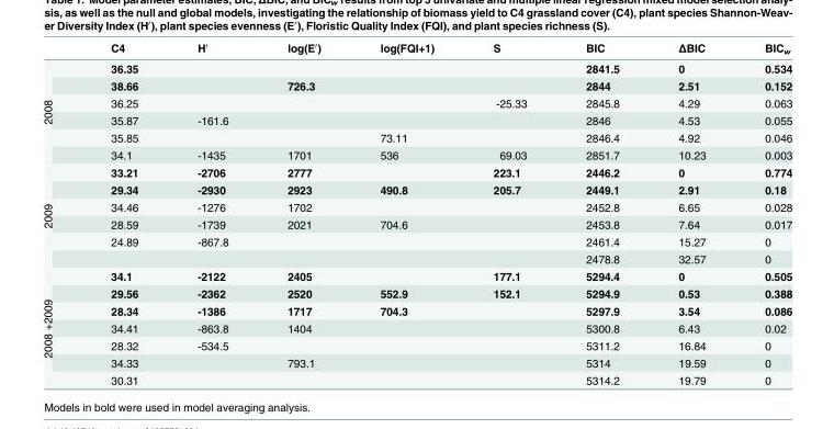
<table><thead><tr><td></td><td>C4</td><td>H′</td><td>log(E′)</td><td>log(FQI+1)</td><td>S</td><td>BIC</td><td>ΔBIC</td><td>BIC<sub>w</sub></td></tr></thead><tbody><tr><td rowspan="6">2008</td><td>36.35</td><td></td><td></td><td></td><td></td><td>2841.5</td><td>0</td><td>0.534</td></tr><tr><td>38.66</td><td></td><td>726.3</td><td></td><td></td><td>2844</td><td>2.51</td><td>0.152</td></tr><tr><td>36.25</td><td></td><td></td><td></td><td>-25.33</td><td>2845.8</td><td>4.29</td><td>0.063</td></tr><tr><td>35.87</td><td>-161.6</td><td></td><td></td><td></td><td>2846</td><td>4.53</td><td>0.055</td></tr><tr><td>35.85</td><td></td><td></td><td>73.11</td><td></td><td>2846.4</td><td>4.92</td><td>0.046</td></tr><tr><td>34.1</td><td>-1435</td><td>1701</td><td>536</td><td>69.03</td><td>2851.7</td><td>10.23</td><td>0.003</td></tr><tr><td rowspan="6">2009</td><td>33.21</td><td>-2706</td><td>2777</td><td></td><td>223.1</td><td>2446.2</td><td>0</td><td>0.774</td></tr><tr><td>29.34</td><td>-2930</td><td>2923</td><td>490.8</td><td>205.7</td><td>2449.1</td><td>2.91</td><td>0.18</td></tr><tr><td>34.46</td><td>-1276</td><td>1702</td><td></td><td></td><td>2452.8</td><td>6.65</td><td>0.028</td></tr><tr><td>28.59</td><td>-1739</td><td>2021</td><td>704.6</td><td></td><td>2453.8</td><td>7.64</td><td>0.017</td></tr><tr><td>24.89</td><td>-867.8</td><td></td><td></td><td></td><td>2461.4</td><td>15.27</td><td>0</td></tr><tr><td></td><td></td><td></td><td></td><td></td><td>2478.8</td><td>32.57</td><td>0</td></tr><tr><td rowspan="7">2008 +2009</td><td>34.1</td><td>-2122</td><td>2405</td><td></td><td>177.1</td><td>5294.4</td><td>0</td><td>0.505</td></tr><tr><td>29.56</td><td>-2362</td><td>2520</td><td>552.9</td><td>152.1</td><td>5294.9</td><td>0.53</td><td>0.388</td></tr><tr><td>28.34</td><td>-1386</td><td>1717</td><td>704.3</td><td></td><td>5297.9</td><td>3.54</td><td>0.086</td></tr><tr><td>34.41</td><td>-863.8</td><td>1404</td><td></td><td></td><td>5300.8</td><td>6.43</td><td>0.02</td></tr><tr><td>28.32</td><td>-534.5</td><td></td><td></td><td></td><td>5311.2</td><td>16.84</td><td>0</td></tr><tr><td>34.33</td><td></td><td>793.1</td><td></td><td></td><td>5314</td><td>19.59</td><td>0</td></tr><tr><td>30.31</td><td></td><td></td><td></td><td></td><td>5314.2</td><td>19.79</td><td>0</td></tr></tbody></table>